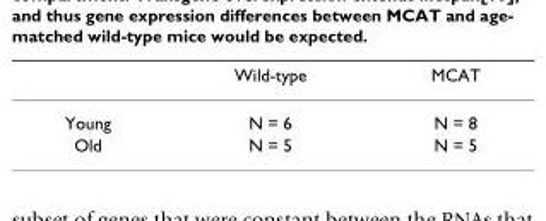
<table><thead><tr><td></td><td>Wild-type</td><td>MCAT</td></tr></thead><tbody><tr><td>Young</td><td>N = 6</td><td>N = 8</td></tr><tr><td>Old</td><td>N = 5</td><td>N = 5</td></tr></tbody></table>